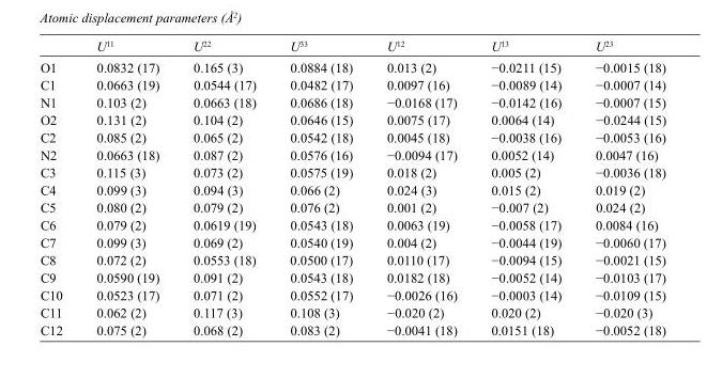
<table><thead><tr><td></td><td>U<sup>11</sup></td><td>U<sup>22</sup></td><td>U<sup>33</sup></td><td>U<sup>12</sup></td><td>U<sup>13</sup></td><td>U<sup>23</sup></td></tr></thead><tbody><tr><td>O1</td><td>0.0832 (17)</td><td>0.165 (3)</td><td>0.0884 (18)</td><td>0.013 (2)</td><td>−0.0211 (15)</td><td>−0.0015 (18)</td></tr><tr><td>C1</td><td>0.0663 (19)</td><td>0.0544 (17)</td><td>0.0482 (17)</td><td>0.0097 (16)</td><td>−0.0089 (14)</td><td>−0.0007 (14)</td></tr><tr><td>N1</td><td>0.103 (2)</td><td>0.0663 (18)</td><td>0.0686 (18)</td><td>−0.0168 (17)</td><td>−0.0142 (16)</td><td>−0.0007 (15)</td></tr><tr><td>O2</td><td>0.131 (2)</td><td>0.104 (2)</td><td>0.0646 (15)</td><td>0.0075 (17)</td><td>0.0064 (14)</td><td>−0.0244 (15)</td></tr><tr><td>C2</td><td>0.085 (2)</td><td>0.065 (2)</td><td>0.0542 (18)</td><td>0.0045 (18)</td><td>−0.0038 (16)</td><td>−0.0053 (16)</td></tr><tr><td>N2</td><td>0.0663 (18)</td><td>0.087 (2)</td><td>0.0576 (16)</td><td>−0.0094 (17)</td><td>0.0052 (14)</td><td>0.0047 (16)</td></tr><tr><td>C3</td><td>0.115 (3)</td><td>0.073 (2)</td><td>0.0575 (19)</td><td>0.018 (2)</td><td>0.005 (2)</td><td>−0.0036 (18)</td></tr><tr><td>C4</td><td>0.099 (3)</td><td>0.094 (3)</td><td>0.066 (2)</td><td>0.024 (3)</td><td>0.015 (2)</td><td>0.019 (2)</td></tr><tr><td>C5</td><td>0.080 (2)</td><td>0.079 (2)</td><td>0.076 (2)</td><td>0.001 (2)</td><td>−0.007 (2)</td><td>0.024 (2)</td></tr><tr><td>C6</td><td>0.079 (2)</td><td>0.0619 (19)</td><td>0.0543 (18)</td><td>0.0063 (19)</td><td>−0.0058 (17)</td><td>0.0084 (16)</td></tr><tr><td>C7</td><td>0.099 (3)</td><td>0.069 (2)</td><td>0.0540 (19)</td><td>0.004 (2)</td><td>−0.0044 (19)</td><td>−0.0060 (17)</td></tr><tr><td>C8</td><td>0.072 (2)</td><td>0.0553 (18)</td><td>0.0500 (17)</td><td>0.0110 (17)</td><td>−0.0094 (15)</td><td>−0.0021 (15)</td></tr><tr><td>C9</td><td>0.0590 (19)</td><td>0.091 (2)</td><td>0.0543 (18)</td><td>0.0182 (18)</td><td>−0.0052 (14)</td><td>−0.0103 (17)</td></tr><tr><td>C10</td><td>0.0523 (17)</td><td>0.071 (2)</td><td>0.0552 (17)</td><td>−0.0026 (16)</td><td>−0.0003 (14)</td><td>−0.0109 (15)</td></tr><tr><td>C11</td><td>0.062 (2)</td><td>0.117 (3)</td><td>0.108 (3)</td><td>−0.020 (2)</td><td>0.020 (2)</td><td>−0.020 (3)</td></tr><tr><td>C12</td><td>0.075 (2)</td><td>0.068 (2)</td><td>0.083 (2)</td><td>−0.0041 (18)</td><td>0.0151 (18)</td><td>−0.0052 (18)</td></tr></tbody></table>